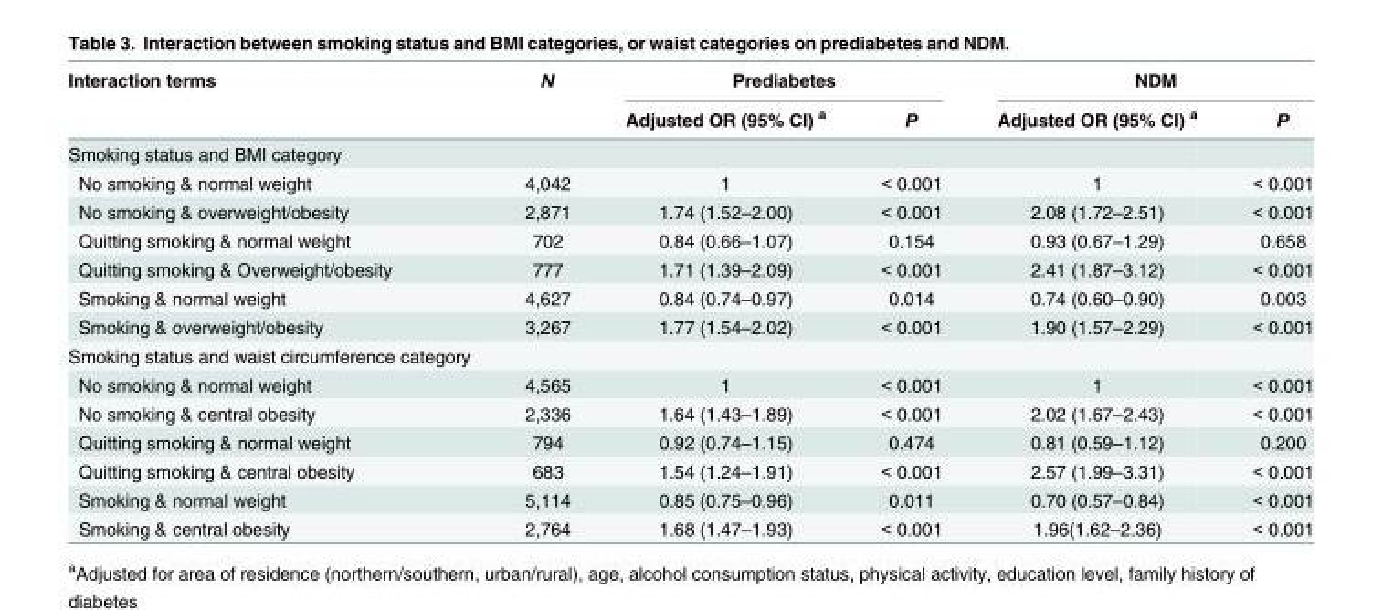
<table><thead><tr><td rowspan="2">Interaction terms</td><td rowspan="2">N</td><td colspan="2">Prediabetes</td><td colspan="2">NDM</td></tr><tr><td>Adjusted OR (95% CI) <sup>a</sup></td><td>P</td><td>Adjusted OR (95% CI) <sup>a</sup></td><td>P</td></tr></thead><tbody><tr><td colspan="6">Smoking status and BMI category</td></tr><tr><td>No smoking &amp; normal weight</td><td>4,042</td><td>1</td><td>&lt; 0.001</td><td>1</td><td>&lt; 0.001</td></tr><tr><td>No smoking &amp; overweight/obesity</td><td>2,871</td><td>1.74 (1.52–2.00)</td><td>&lt; 0.001</td><td>2.08 (1.72–2.51)</td><td>&lt; 0.001</td></tr><tr><td>Quitting smoking &amp; normal weight</td><td>702</td><td>0.84 (0.66–1.07)</td><td>0.154</td><td>0.93 (0.67–1.29)</td><td>0.658</td></tr><tr><td>Quitting smoking &amp; Overweight/obesity</td><td>777</td><td>1.71 (1.39–2.09)</td><td>&lt; 0.001</td><td>2.41 (1.87–3.12)</td><td>&lt; 0.001</td></tr><tr><td>Smoking &amp; normal weight</td><td>4,627</td><td>0.84 (0.74–0.97)</td><td>0.014</td><td>0.74 (0.60–0.90)</td><td>0.003</td></tr><tr><td>Smoking &amp; overweight/obesity</td><td>3,267</td><td>1.77 (1.54–2.02)</td><td>&lt; 0.001</td><td>1.90 (1.57–2.29)</td><td>&lt; 0.001</td></tr><tr><td colspan="6">Smoking status and waist circumference category</td></tr><tr><td>No smoking &amp; normal weight</td><td>4,565</td><td>1</td><td>&lt; 0.001</td><td>1</td><td>&lt; 0.001</td></tr><tr><td>No smoking &amp; central obesity</td><td>2,336</td><td>1.64 (1.43–1.89)</td><td>&lt; 0.001</td><td>2.02 (1.67–2.43)</td><td>&lt; 0.001</td></tr><tr><td>Quitting smoking &amp; normal weight</td><td>794</td><td>0.92 (0.74–1.15)</td><td>0.474</td><td>0.81 (0.59–1.12)</td><td>0.200</td></tr><tr><td>Quitting smoking &amp; central obesity</td><td>683</td><td>1.54 (1.24–1.91)</td><td>&lt; 0.001</td><td>2.57 (1.99–3.31)</td><td>&lt; 0.001</td></tr><tr><td>Smoking &amp; normal weight</td><td>5,114</td><td>0.85 (0.75–0.96)</td><td>0.011</td><td>0.70 (0.57–0.84)</td><td>&lt; 0.001</td></tr><tr><td>Smoking &amp; central obesity</td><td>2,764</td><td>1.68 (1.47–1.93)</td><td>&lt; 0.001</td><td>1.96(1.62–2.36)</td><td>&lt; 0.001</td></tr></tbody></table>